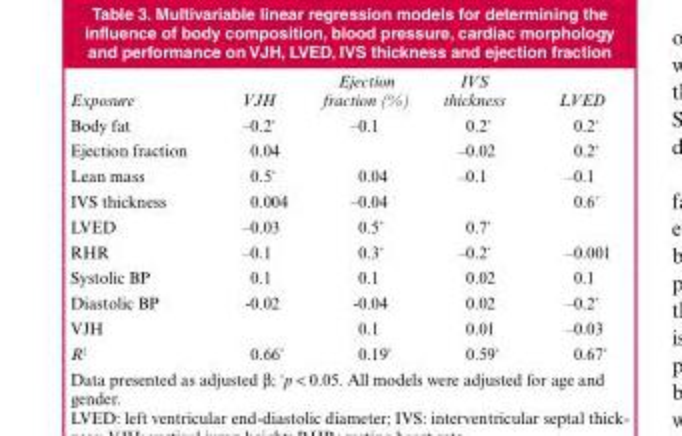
<table><thead><tr><td>Exposure</td><td>VJH</td><td>Ejection fraction (%)</td><td>IVS thickness</td><td>LVED</td></tr></thead><tbody><tr><td>Body fat</td><td>–0.2*</td><td>–0.1</td><td>0.2*</td><td>0.2*</td></tr><tr><td>Ejection fraction</td><td>0.04</td><td></td><td>–0.02</td><td>0.2*</td></tr><tr><td>Lean mass</td><td>0.5*</td><td>0.04</td><td>–0.1</td><td>–0.1</td></tr><tr><td>IVS thickness</td><td>0.004</td><td>–0.04</td><td></td><td>0.6*</td></tr><tr><td>LVED</td><td>–0.03</td><td>0.5*</td><td>0.7*</td><td></td></tr><tr><td>RHR</td><td>–0.1</td><td>0.3*</td><td>–0.2*</td><td>–0.001</td></tr><tr><td>Systolic BP</td><td>0.1</td><td>0.1</td><td>0.02</td><td>0.1</td></tr><tr><td>Diastolic BP</td><td>-0.02</td><td>-0.04</td><td>0.02</td><td>–0.2*</td></tr><tr><td>VJH</td><td></td><td>0.1</td><td>0.01</td><td>–0.03</td></tr><tr><td>R<sup>2</sup></td><td>0.66*</td><td>0.19*</td><td>0.59*</td><td>0.67*</td></tr></tbody></table>